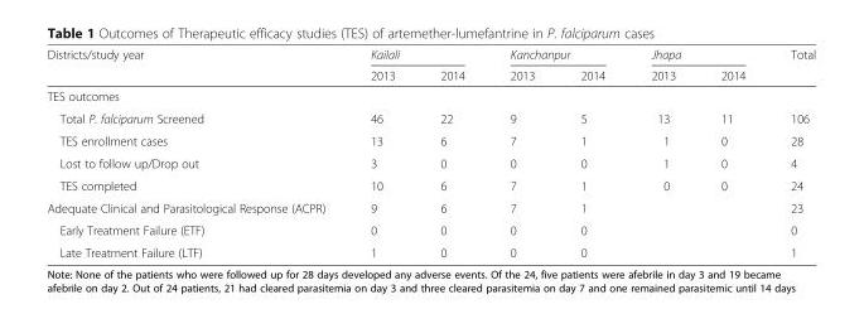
<table><thead><tr><td rowspan="2">Districts/study year</td><td colspan="2">Kailali</td><td colspan="2">Kanchanpur</td><td colspan="2">Jhapa</td><td rowspan="2">Total</td></tr><tr><td>2013</td><td>2014</td><td>2013</td><td>2014</td><td>2013</td><td>2014</td></tr></thead><tbody><tr><td colspan="8">TES outcomes</td></tr><tr><td>Total P. falciparum Screened</td><td>46</td><td>22</td><td>9</td><td>5</td><td>13</td><td>11</td><td>106</td></tr><tr><td>TES enrollment cases</td><td>13</td><td>6</td><td>7</td><td>1</td><td>1</td><td>0</td><td>28</td></tr><tr><td>Lost to follow up/Drop out</td><td>3</td><td>0</td><td>0</td><td>0</td><td>1</td><td>0</td><td>4</td></tr><tr><td>TES completed</td><td>10</td><td>6</td><td>7</td><td>1</td><td>0</td><td>0</td><td>24</td></tr><tr><td>Adequate Clinical and Parasitological Response (ACPR)</td><td>9</td><td>6</td><td>7</td><td>1</td><td></td><td></td><td>23</td></tr><tr><td>Early Treatment Failure (ETF)</td><td>0</td><td>0</td><td>0</td><td>0</td><td></td><td></td><td>0</td></tr><tr><td>Late Treatment Failure (LTF)</td><td>1</td><td>0</td><td>0</td><td>0</td><td></td><td></td><td>1</td></tr></tbody></table>